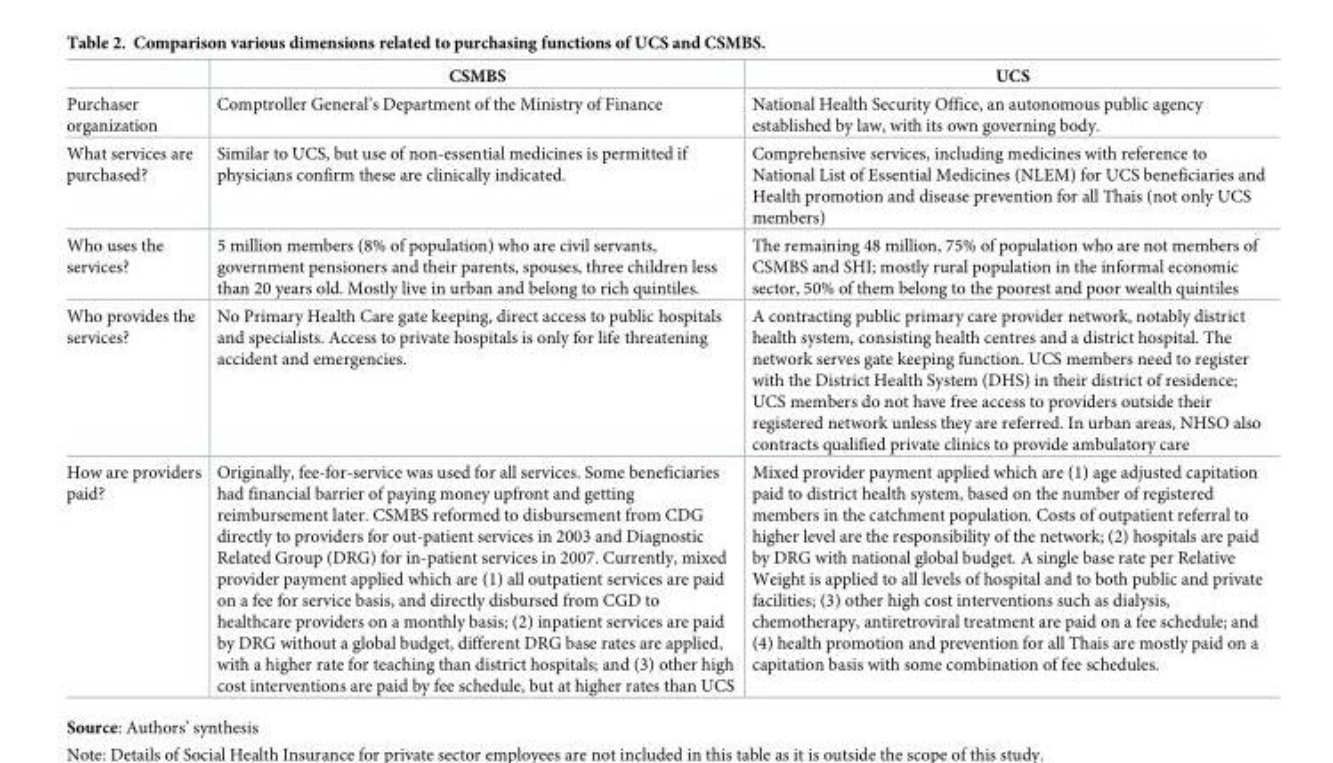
<table><thead><tr><td></td><td>CSMBS</td><td>UCS</td></tr></thead><tbody><tr><td>Purchaser organization</td><td>Comptroller General’s Department of the Ministry of Finance</td><td>National Health Security Office, an autonomous public agency established by law, with its own governing body.</td></tr><tr><td>What services are purchased?</td><td>Similar to UCS, but use of non-essential medicines is permitted if physicians confirm these are clinically indicated.</td><td>Comprehensive services, including medicines with reference to National List of Essential Medicines (NLEM) for UCS beneficiaries and Health promotion and disease prevention for all Thais (not only UCS members)</td></tr><tr><td>Who uses the services?</td><td>5 million members (8% of population) who are civil servants, government pensioners and their parents, spouses, three children less than 20 years old. Mostly live in urban and belong to rich quintiles.</td><td>The remaining 48 million, 75% of population who are not members of CSMBS and SHI; mostly rural population in the informal economic sector, 50% of them belong to the poorest and poor wealth quintiles</td></tr><tr><td>Who provides the services?</td><td>No Primary Health Care gate keeping, direct access to public hospitals and specialists. Access to private hospitals is only for life threatening accident and emergencies.</td><td>A contracting public primary care provider network, notably district health system, consisting health centres and a district hospital. The network serves gate keeping function. UCS members need to register with the District Health System (DHS) in their district of residence; UCS members do not have free access to providers outside their registered network unless they are referred. In urban areas, NHSO also contracts qualified private clinics to provide ambulatory care</td></tr><tr><td>How are providers paid?</td><td>Originally, fee-for-service was used for all services. Some beneficiaries had financial barrier of paying money upfront and getting reimbursement later. CSMBS reformed to disbursement from CDG directly to providers for out-patient services in 2003 and Diagnostic Related Group (DRG) for in-patient services in 2007. Currently, mixed provider payment applied which are (1) all outpatient services are paid on a fee for service basis, and directly disbursed from CGD to healthcare providers on a monthly basis; (2) inpatient services are paid by DRG without a global budget, different DRG base rates are applied, with a higher rate for teaching than district hospitals; and (3) other high cost interventions are paid by fee schedule, but at higher rates than UCS</td><td>Mixed provider payment applied which are (1) age adjusted capitation paid to district health system, based on the number of registered members in the catchment population. Costs of outpatient referral to higher level are the responsibility of the network; (2) hospitals are paid by DRG with national global budget. A single base rate per Relative Weight is applied to all levels of hospital and to both public and private facilities; (3) other high cost interventions such as dialysis, chemotherapy, antiretroviral treatment are paid on a fee schedule; and (4) health promotion and prevention for all Thais are mostly paid on a capitation basis with some combination of fee schedules.</td></tr></tbody></table>